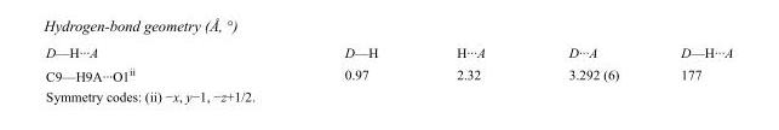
<table><tbody><tr><td>D—H···A</td><td>D—H</td><td>H···A</td><td>D···A</td><td>D—H···A</td></tr><tr><td>C9—H9A···O1<sup>ii</sup></td><td>0.97</td><td>2.32</td><td>3.292 (6)</td><td>177</td></tr></tbody></table>